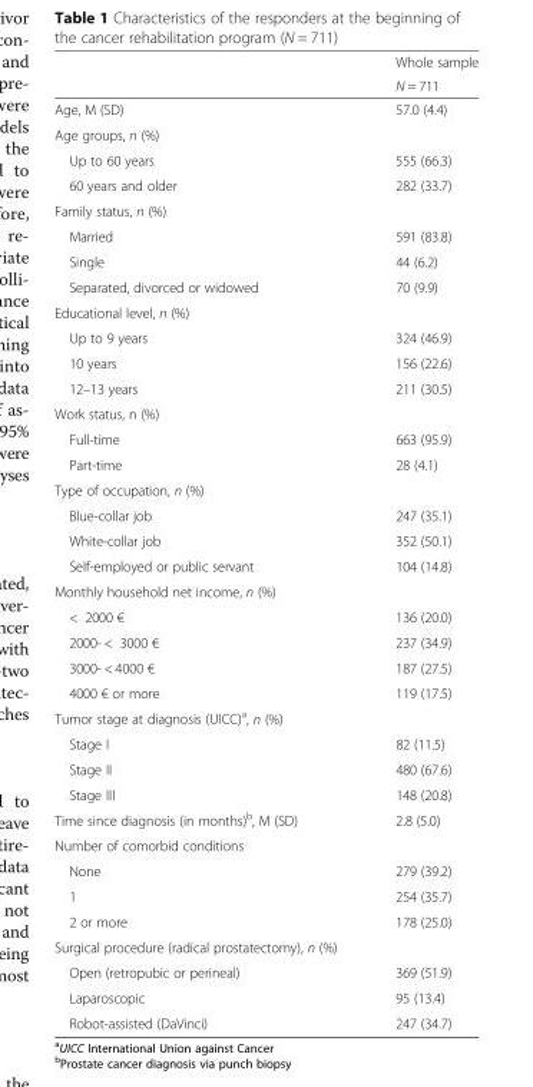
<table><thead><tr><td rowspan="2"></td><td rowspan="2">Whole sample N = 711</td></tr><tr></tr></thead><tbody><tr><td>Age, M (SD)</td><td>57.0 (4.4)</td></tr><tr><td colspan="2">Age groups, n (%)</td></tr><tr><td>Up to 60 years</td><td>555 (66.3)</td></tr><tr><td>60 years and older</td><td>282 (33.7)</td></tr><tr><td colspan="2">Family status, n (%)</td></tr><tr><td>Married</td><td>591 (83.8)</td></tr><tr><td>Single</td><td>44 (6.2)</td></tr><tr><td>Separated, divorced or widowed</td><td>70 (9.9)</td></tr><tr><td colspan="2">Educational level, n (%)</td></tr><tr><td>Up to 9 years</td><td>324 (46.9)</td></tr><tr><td>10 years</td><td>156 (22.6)</td></tr><tr><td>12–13 years</td><td>211 (30.5)</td></tr><tr><td colspan="2">Work status, n (%)</td></tr><tr><td>Full-time</td><td>663 (95.9)</td></tr><tr><td>Part-time</td><td>28 (4.1)</td></tr><tr><td colspan="2">Type of occupation, n (%)</td></tr><tr><td>Blue-collar job</td><td>247 (35.1)</td></tr><tr><td>White-collar job</td><td>352 (50.1)</td></tr><tr><td>Self-employed or public servant</td><td>104 (14.8)</td></tr><tr><td colspan="2">Monthly household net income, n (%)</td></tr><tr><td>&lt; 2000 €</td><td>136 (20.0)</td></tr><tr><td>2000- &lt; 3000 €</td><td>237 (34.9)</td></tr><tr><td>3000- &lt; 4000 €</td><td>187 (27.5)</td></tr><tr><td>4000 € or more</td><td>119 (17.5)</td></tr><tr><td colspan="2">Tumor stage at diagnosis (UICC)<sup>a</sup>, n (%)</td></tr><tr><td>Stage I</td><td>82 (11.5)</td></tr><tr><td>Stage II</td><td>480 (67.6)</td></tr><tr><td>Stage III</td><td>148 (20.8)</td></tr><tr><td>Time since diagnosis (in months)<sup>b</sup>, M (SD)</td><td>2.8 (5.0)</td></tr><tr><td colspan="2">Number of comorbid conditions</td></tr><tr><td>None</td><td>279 (39.2)</td></tr><tr><td>1</td><td>254 (35.7)</td></tr><tr><td>2 or more</td><td>178 (25.0)</td></tr><tr><td colspan="2">Surgical procedure (radical prostatectomy), n (%)</td></tr><tr><td>Open (retropubic or perineal)</td><td>369 (51.9)</td></tr><tr><td>Laparoscopic</td><td>95 (13.4)</td></tr><tr><td>Robot-assisted (DaVinci)</td><td>247 (34.7)</td></tr></tbody></table>